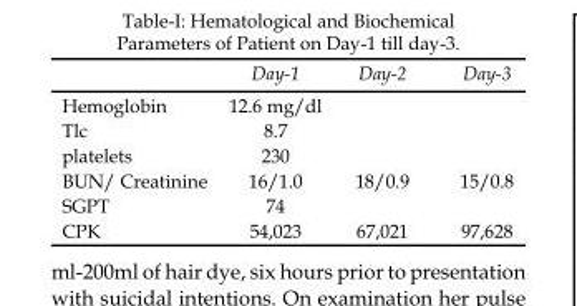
<table><thead><tr><td></td><td>Day-1</td><td>Day-2</td><td>Day-3</td></tr></thead><tbody><tr><td>Hemoglobin</td><td>12.6 mg/dl</td><td></td><td></td></tr><tr><td>Tlc</td><td>8.7</td><td></td><td></td></tr><tr><td>platelets</td><td>230</td><td></td><td></td></tr><tr><td>BUN/ Creatinine</td><td>16/1.0</td><td>18/0.9</td><td>15/0.8</td></tr><tr><td>SGPT</td><td>74</td><td></td><td></td></tr><tr><td>CPK</td><td>54,023</td><td>67,021</td><td>97,628</td></tr></tbody></table>